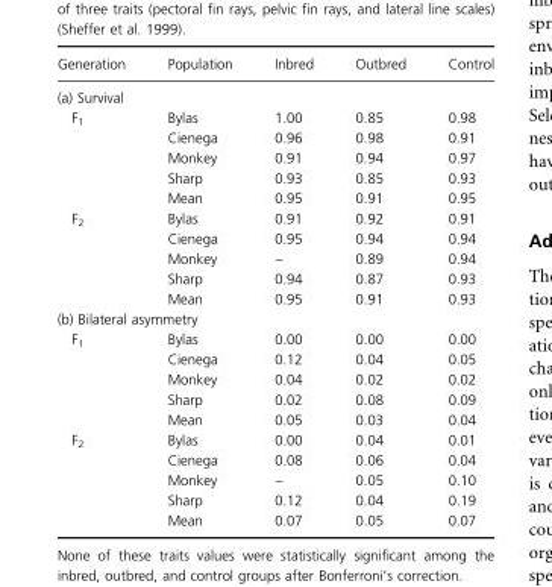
<table><thead><tr><td>Generation</td><td>Population</td><td>Inbred</td><td>Outbred</td><td>Control</td></tr></thead><tbody><tr><td colspan="5">(a) Survival</td></tr><tr><td rowspan="5">F<sub>1</sub></td><td>Bylas</td><td>1.00</td><td>0.85</td><td>0.98</td></tr><tr><td>Cienega</td><td>0.96</td><td>0.98</td><td>0.91</td></tr><tr><td>Monkey</td><td>0.91</td><td>0.94</td><td>0.97</td></tr><tr><td>Sharp</td><td>0.93</td><td>0.85</td><td>0.93</td></tr><tr><td>Mean</td><td>0.95</td><td>0.91</td><td>0.95</td></tr><tr><td rowspan="5">F<sub>2</sub></td><td>Bylas</td><td>0.91</td><td>0.92</td><td>0.91</td></tr><tr><td>Cienega</td><td>0.95</td><td>0.94</td><td>0.94</td></tr><tr><td>Monkey</td><td>–</td><td>0.89</td><td>0.94</td></tr><tr><td>Sharp</td><td>0.94</td><td>0.87</td><td>0.93</td></tr><tr><td>Mean</td><td>0.95</td><td>0.91</td><td>0.93</td></tr><tr><td colspan="5">(b) Bilateral asymmetry</td></tr><tr><td rowspan="5">F<sub>1</sub></td><td>Bylas</td><td>0.00</td><td>0.00</td><td>0.00</td></tr><tr><td>Cienega</td><td>0.12</td><td>0.04</td><td>0.05</td></tr><tr><td>Monkey</td><td>0.04</td><td>0.02</td><td>0.02</td></tr><tr><td>Sharp</td><td>0.02</td><td>0.08</td><td>0.09</td></tr><tr><td>Mean</td><td>0.05</td><td>0.03</td><td>0.04</td></tr><tr><td rowspan="5">F<sub>2</sub></td><td>Bylas</td><td>0.00</td><td>0.04</td><td>0.01</td></tr><tr><td>Cienega</td><td>0.08</td><td>0.06</td><td>0.04</td></tr><tr><td>Monkey</td><td>–</td><td>0.05</td><td>0.10</td></tr><tr><td>Sharp</td><td>0.12</td><td>0.04</td><td>0.19</td></tr><tr><td>Mean</td><td>0.07</td><td>0.05</td><td>0.07</td></tr></tbody></table>